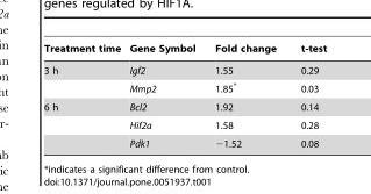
<table><thead><tr><td>Treatment time</td><td>Gene Symbol</td><td>Fold change</td><td>t-test</td></tr></thead><tbody><tr><td rowspan="2">3 h</td><td>Igf2</td><td>1.55</td><td>0.29</td></tr><tr><td>Mmp2</td><td>1.85*</td><td>0.03</td></tr><tr><td rowspan="3">6 h</td><td>Bcl2</td><td>1.92</td><td>0.14</td></tr><tr><td>Hif2a</td><td>1.58</td><td>0.28</td></tr><tr><td>Pdk1</td><td>−1.52</td><td>0.08</td></tr></tbody></table>